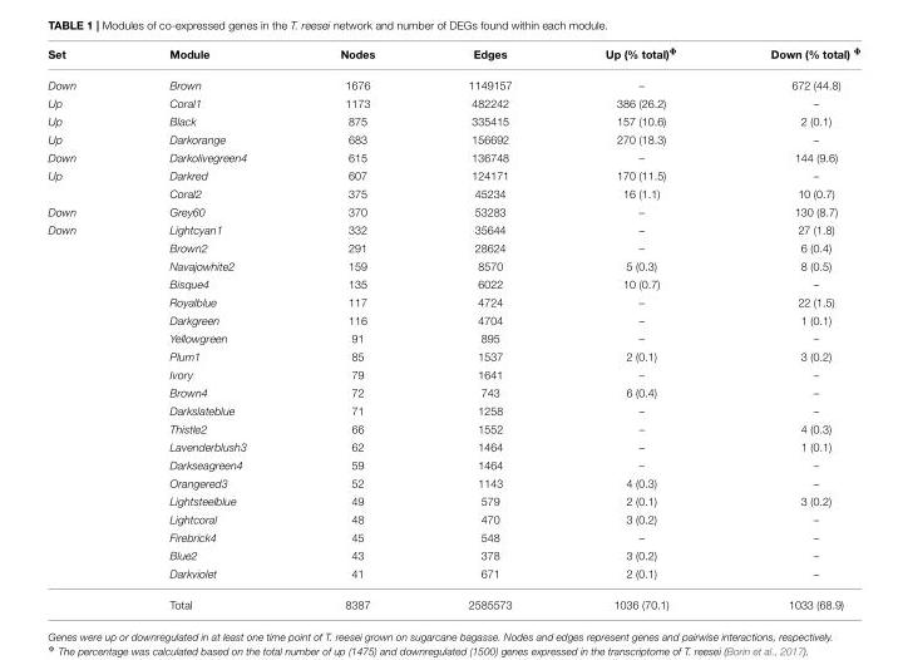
<table><thead><tr><td>Set</td><td>Module</td><td>Nodes</td><td>Edges</td><td>Up (% total)<sup>Φ</sup></td><td>Down (% total)</td></tr></thead><tbody><tr><td>Down</td><td>Brown</td><td>1676</td><td>1149157</td><td>–</td><td>672 (44.8)</td></tr><tr><td>Up</td><td>Coral1</td><td>1173</td><td>482242</td><td>386 (26.2)</td><td>–</td></tr><tr><td>Up</td><td>Black</td><td>875</td><td>335415</td><td>157 (10.6)</td><td>2 (0.1)</td></tr><tr><td>Up</td><td>Darkorange</td><td>683</td><td>156692</td><td>270 (18.3)</td><td>–</td></tr><tr><td>Down</td><td>Darkolivegreen4</td><td>615</td><td>136748</td><td>–</td><td>144 (9.6)</td></tr><tr><td rowspan="2">Up</td><td>Darkred</td><td>607</td><td>124171</td><td>170 (11.5)</td><td>–</td></tr><tr><td>Coral2</td><td>375</td><td>45234</td><td>16 (1.1)</td><td>10 (0.7)</td></tr><tr><td>Down</td><td>Grey60</td><td>370</td><td>53283</td><td>–</td><td>130 (8.7)</td></tr><tr><td rowspan="21">Down</td><td>Lightcyan1</td><td>332</td><td>35644</td><td>–</td><td>27 (1.8)</td></tr><tr><td>Brown2</td><td>291</td><td>28624</td><td>–</td><td>6 (0.4)</td></tr><tr><td>Navajowhite2</td><td>159</td><td>8570</td><td>5 (0.3)</td><td>8 (0.5)</td></tr><tr><td>Bisque4</td><td>135</td><td>6022</td><td>10 (0.7)</td><td>–</td></tr><tr><td>Royalblue</td><td>117</td><td>4724</td><td>–</td><td>22 (1.5)</td></tr><tr><td>Darkgreen</td><td>116</td><td>4704</td><td>–</td><td>1 (0.1)</td></tr><tr><td>Yellowgreen</td><td>91</td><td>895</td><td>–</td><td>–</td></tr><tr><td>Plum1</td><td>85</td><td>1537</td><td>2 (0.1)</td><td>3 (0.2)</td></tr><tr><td>Ivory</td><td>79</td><td>1641</td><td>–</td><td>–</td></tr><tr><td>Brown4</td><td>72</td><td>743</td><td>6 (0.4)</td><td>–</td></tr><tr><td>Darkslateblue</td><td>71</td><td>1258</td><td>–</td><td>–</td></tr><tr><td>Thistle2</td><td>66</td><td>1552</td><td>–</td><td>4 (0.3)</td></tr><tr><td>Lavenderblush3</td><td>62</td><td>1464</td><td>–</td><td>1 (0.1)</td></tr><tr><td>Darkseagreen4</td><td>59</td><td>1464</td><td>–</td><td>–</td></tr><tr><td>Orangered3</td><td>52</td><td>1143</td><td>4 (0.3)</td><td>–</td></tr><tr><td>Lightsteelblue</td><td>49</td><td>579</td><td>2 (0.1)</td><td>3 (0.2)</td></tr><tr><td>Lightcoral</td><td>48</td><td>470</td><td>3 (0.2)</td><td>–</td></tr><tr><td>Firebrick4</td><td>45</td><td>548</td><td>–</td><td>–</td></tr><tr><td>Blue2</td><td>43</td><td>378</td><td>3 (0.2)</td><td>–</td></tr><tr><td>Darkviolet</td><td>41</td><td>671</td><td>2 (0.1)</td><td>–</td></tr><tr><td>Total</td><td>8387</td><td>2585573</td><td>1036 (70.1)</td><td>1033 (68.9)</td></tr></tbody></table>